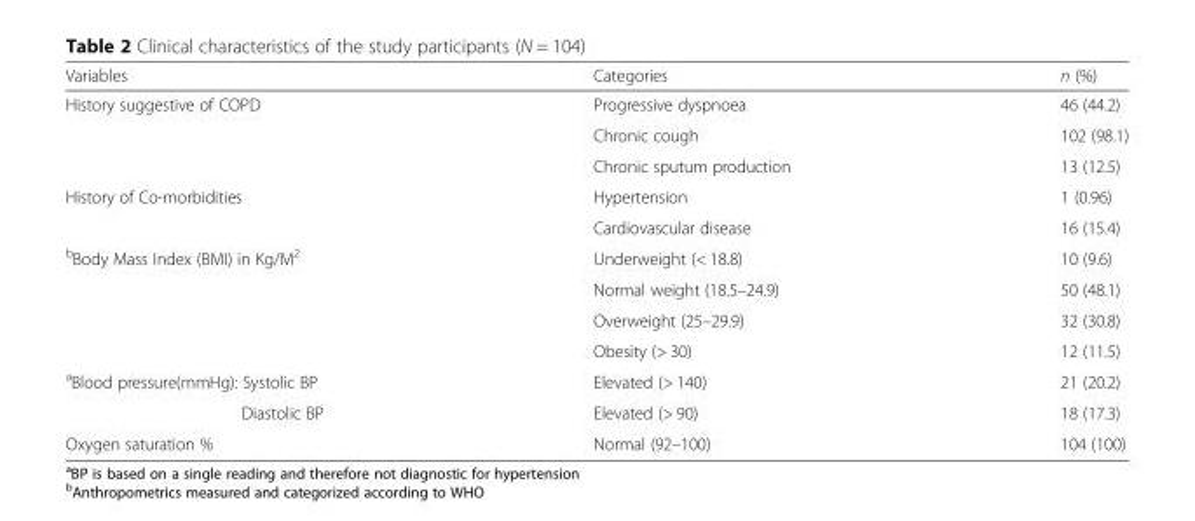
<table><thead><tr><td>Variables</td><td>Categories</td><td>n (%)</td></tr></thead><tbody><tr><td rowspan="3">History suggestive of COPD</td><td>Progressive dyspnoea</td><td>46 (44.2)</td></tr><tr><td>Chronic cough</td><td>102 (98.1)</td></tr><tr><td>Chronic sputum production</td><td>13 (12.5)</td></tr><tr><td rowspan="2">History of Co-morbidities</td><td>Hypertension</td><td>1 (0.96)</td></tr><tr><td>Cardiovascular disease</td><td>16 (15.4)</td></tr><tr><td rowspan="4"><sup>b</sup>Body Mass Index (BMI) in Kg/M<sup>2</sup></td><td>Underweight (&lt; 18.8)</td><td>10 (9.6)</td></tr><tr><td>Normal weight (18.5–24.9)</td><td>50 (48.1)</td></tr><tr><td>Overweight (25–29.9)</td><td>32 (30.8)</td></tr><tr><td>Obesity (&gt; 30)</td><td>12 (11.5)</td></tr><tr><td><sup>a</sup>Blood pressure(mmHg): Systolic BP</td><td>Elevated (&gt; 140)</td><td>21 (20.2)</td></tr><tr><td>Diastolic BP</td><td>Elevated (&gt; 90)</td><td>18 (17.3)</td></tr><tr><td>Oxygen saturation %</td><td>Normal (92–100)</td><td>104 (100)</td></tr></tbody></table>